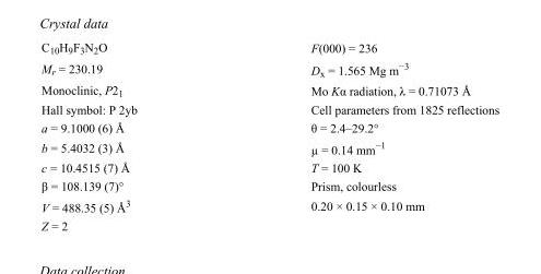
<table><tbody><tr><td>C<sub>10</sub>H<sub>9</sub>F<sub>3</sub>N<sub>2</sub>O</td><td>F(000) = 236</td></tr><tr><td>M<sub>r</sub> = 230.19</td><td>D<sub>x</sub> = 1.565 Mg m<sup>−3</sup></td></tr><tr><td>Monoclinic, P2<sub>1</sub></td><td>Mo Kα radiation, λ = 0.71073 Å</td></tr><tr><td>Hall symbol: P 2yb</td><td>Cell parameters from 1825 reflections</td></tr><tr><td>a = 9.1000 (6) Å</td><td>θ = 2.4–29.2°</td></tr><tr><td>b = 5.4032 (3) Å</td><td>µ = 0.14 mm<sup>−1</sup></td></tr><tr><td>c = 10.4515 (7) Å</td><td>T = 100 K</td></tr><tr><td>β = 108.139 (7)°</td><td>Prism, colourless</td></tr><tr><td>V = 488.35 (5) Å<sup>3</sup></td><td>0.20 × 0.15 × 0.10 mm</td></tr><tr><td>Z = 2</td><td></td></tr></tbody></table>